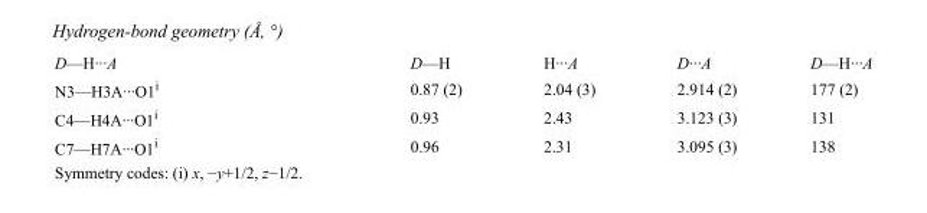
<table><tbody><tr><td>D—H···A</td><td>D—H</td><td>H···A</td><td>D···A</td><td>D—H···A</td></tr><tr><td>N3—H3A···O1<sup>i</sup></td><td>0.87 (2)</td><td>2.04 (3)</td><td>2.914 (2)</td><td>177 (2)</td></tr><tr><td>C4—H4A···O1<sup>i</sup></td><td>0.93</td><td>2.43</td><td>3.123 (3)</td><td>131</td></tr><tr><td>C7—H7A···O1<sup>i</sup></td><td>0.96</td><td>2.31</td><td>3.095 (3)</td><td>138</td></tr></tbody></table>